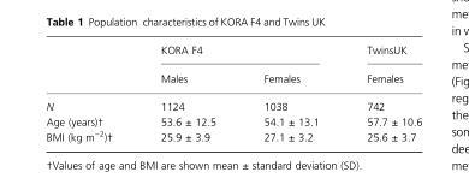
<table><thead><tr><td rowspan="2"></td><td colspan="2">KORA F4</td><td rowspan="2">TwinsUK Females</td></tr><tr><td>Males</td><td>Females</td></tr></thead><tbody><tr><td>N</td><td>1124</td><td>1038</td><td>742</td></tr><tr><td>Age (years)†</td><td>53.6 ± 12.5</td><td>54.1 ± 13.1</td><td>57.7 ± 10.6</td></tr><tr><td>BMI (kg m<sup>−2</sup>)†</td><td>25.9 ± 3.9</td><td>27.1 ± 3.2</td><td>25.6 ± 3.7</td></tr></tbody></table>